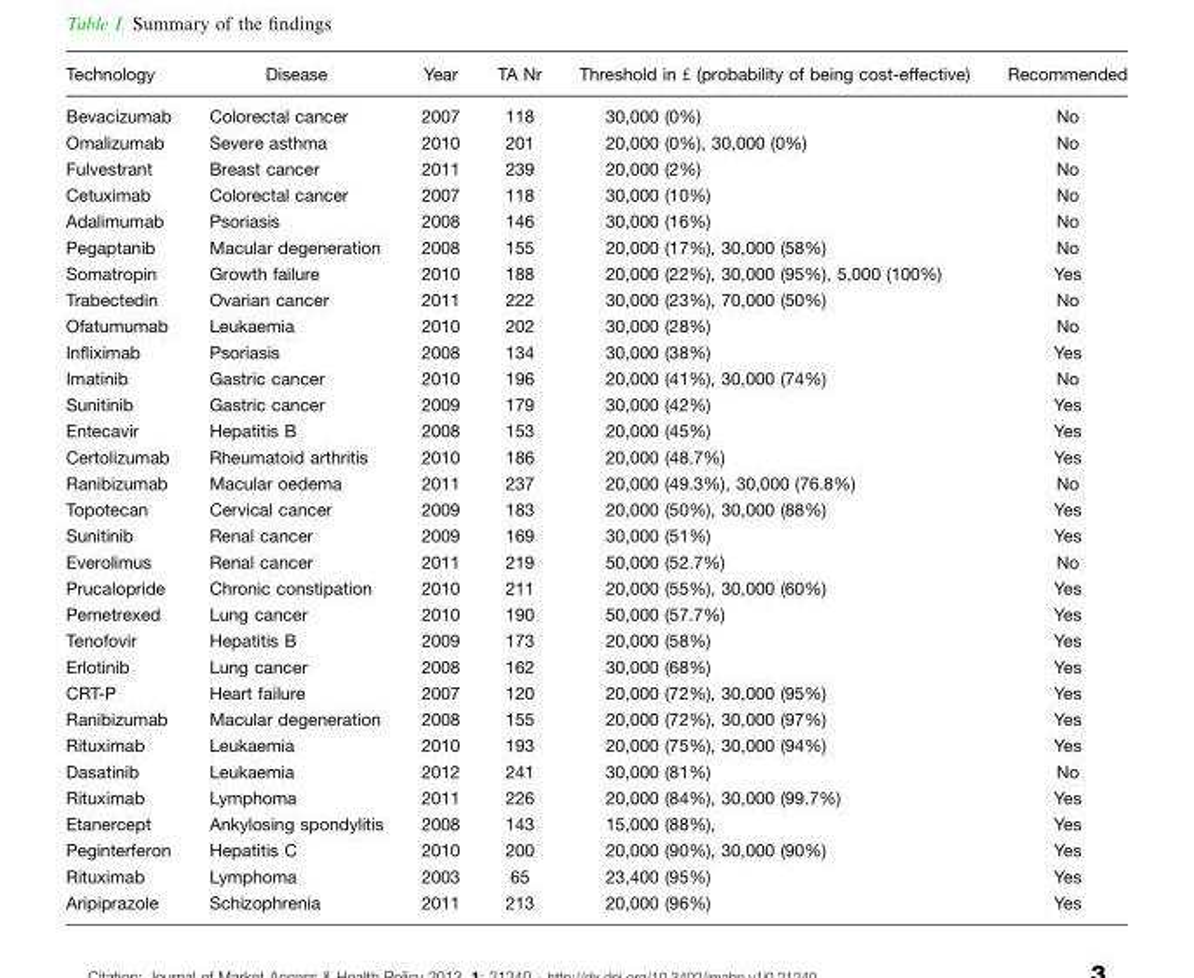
<table><thead><tr><td>Technology</td><td>Disease</td><td>Year</td><td>TA Nr</td><td>Threshold in £ (probability of being cost-effective)</td><td>Recommended</td></tr></thead><tbody><tr><td>Bevacizumab</td><td>Colorectal cancer</td><td>2007</td><td>118</td><td>30,000 (0%)</td><td>No</td></tr><tr><td>Omalizumab</td><td>Severe asthma</td><td>2010</td><td>201</td><td>20,000 (0%), 30,000 (0%)</td><td>No</td></tr><tr><td>Fulvestrant</td><td>Breast cancer</td><td>2011</td><td>239</td><td>20,000 (2%)</td><td>No</td></tr><tr><td>Cetuximab</td><td>Colorectal cancer</td><td>2007</td><td>118</td><td>30,000 (10%)</td><td>No</td></tr><tr><td>Adalimumab</td><td>Psoriasis</td><td>2008</td><td>146</td><td>30,000 (16%)</td><td>No</td></tr><tr><td>Pegaptanib</td><td>Macular degeneration</td><td>2008</td><td>155</td><td>20,000 (17%), 30,000 (58%)</td><td>No</td></tr><tr><td>Somatropin</td><td>Growth failure</td><td>2010</td><td>188</td><td>20,000 (22%), 30,000 (95%), 5,000 (100%)</td><td>Yes</td></tr><tr><td>Trabectedin</td><td>Ovarian cancer</td><td>2011</td><td>222</td><td>30,000 (23%), 70,000 (50%)</td><td>No</td></tr><tr><td>Ofatumumab</td><td>Leukaemia</td><td>2010</td><td>202</td><td>30,000 (28%)</td><td>No</td></tr><tr><td>Infliximab</td><td>Psoriasis</td><td>2008</td><td>134</td><td>30,000 (38%)</td><td>Yes</td></tr><tr><td>Imatinib</td><td>Gastric cancer</td><td>2010</td><td>196</td><td>20,000 (41%), 30,000 (74%)</td><td>No</td></tr><tr><td>Sunitinib</td><td>Gastric cancer</td><td>2009</td><td>179</td><td>30,000 (42%)</td><td>Yes</td></tr><tr><td>Entecavir</td><td>Hepatitis B</td><td>2008</td><td>153</td><td>20,000 (45%)</td><td>Yes</td></tr><tr><td>Certolizumab</td><td>Rheumatoid arthritis</td><td>2010</td><td>186</td><td>20,000 (48.7%)</td><td>Yes</td></tr><tr><td>Ranibizumab</td><td>Macular oedema</td><td>2011</td><td>237</td><td>20,000 (49.3%), 30,000 (76.8%)</td><td>No</td></tr><tr><td>Topotecan</td><td>Cervical cancer</td><td>2009</td><td>183</td><td>20,000 (50%), 30,000 (88%)</td><td>Yes</td></tr><tr><td>Sunitinib</td><td>Renal cancer</td><td>2009</td><td>169</td><td>30,000 (51%)</td><td>Yes</td></tr><tr><td>Everolimus</td><td>Renal cancer</td><td>2011</td><td>219</td><td>50,000 (52.7%)</td><td>No</td></tr><tr><td>Prucalopride</td><td>Chronic constipation</td><td>2010</td><td>211</td><td>20,000 (55%), 30,000 (60%)</td><td>Yes</td></tr><tr><td>Pemetrexed</td><td>Lung cancer</td><td>2010</td><td>190</td><td>50,000 (57.7%)</td><td>Yes</td></tr><tr><td>Tenofovir</td><td>Hepatitis B</td><td>2009</td><td>173</td><td>20,000 (58%)</td><td>Yes</td></tr><tr><td>Erlotinib</td><td>Lung cancer</td><td>2008</td><td>162</td><td>30,000 (68%)</td><td>Yes</td></tr><tr><td>CRT-P</td><td>Heart failure</td><td>2007</td><td>120</td><td>20,000 (72%), 30,000 (95%)</td><td>Yes</td></tr><tr><td>Ranibizumab</td><td>Macular degeneration</td><td>2008</td><td>155</td><td>20,000 (72%), 30,000 (97%)</td><td>Yes</td></tr><tr><td>Rituximab</td><td>Leukaemia</td><td>2010</td><td>193</td><td>20,000 (75%), 30,000 (94%)</td><td>Yes</td></tr><tr><td>Dasatinib</td><td>Leukaemia</td><td>2012</td><td>241</td><td>30,000 (81%)</td><td>No</td></tr><tr><td>Rituximab</td><td>Lymphoma</td><td>2011</td><td>226</td><td>20,000 (84%), 30,000 (99.7%)</td><td>Yes</td></tr><tr><td>Etanercept</td><td>Ankylosing spondylitis</td><td>2008</td><td>143</td><td>15,000 (88%),</td><td>Yes</td></tr><tr><td>Peginterferon</td><td>Hepatitis C</td><td>2010</td><td>200</td><td>20,000 (90%), 30,000 (90%)</td><td>Yes</td></tr><tr><td>Rituximab</td><td>Lymphoma</td><td>2003</td><td>65</td><td>23,400 (95%)</td><td>Yes</td></tr><tr><td>Aripiprazole</td><td>Schizophrenia</td><td>2011</td><td>213</td><td>20,000 (96%)</td><td>Yes</td></tr></tbody></table>